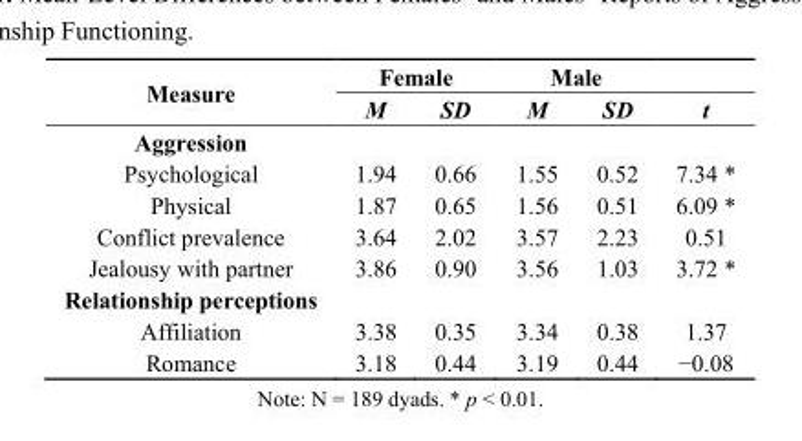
<table><thead><tr><td rowspan="2">Measure</td><td colspan="2">Female</td><td colspan="2">Male</td><td rowspan="2">t</td></tr><tr><td>M</td><td>SD</td><td>M</td><td>SD</td></tr></thead><tbody><tr><td colspan="6">Aggression</td></tr><tr><td>Psychological</td><td>1.94</td><td>0.66</td><td>1.55</td><td>0.52</td><td>7.34 *</td></tr><tr><td>Physical</td><td>1.87</td><td>0.65</td><td>1.56</td><td>0.51</td><td>6.09 *</td></tr><tr><td>Conflict prevalence</td><td>3.64</td><td>2.02</td><td>3.57</td><td>2.23</td><td>0.51</td></tr><tr><td>Jealousy with partner</td><td>3.86</td><td>0.90</td><td>3.56</td><td>1.03</td><td>3.72 *</td></tr><tr><td colspan="6">Relationship perceptions</td></tr><tr><td>Affiliation</td><td>3.38</td><td>0.35</td><td>3.34</td><td>0.38</td><td>1.37</td></tr><tr><td>Romance</td><td>3.18</td><td>0.44</td><td>3.19</td><td>0.44</td><td>−0.08</td></tr></tbody></table>